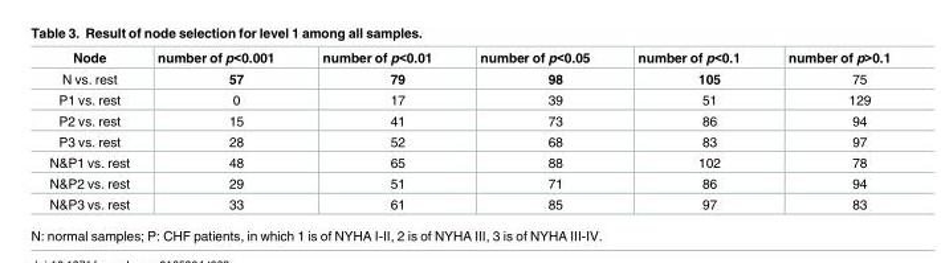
<table><thead><tr><td>Node</td><td>number of p&lt;0.001</td><td>number of p&lt;0.01</td><td>number of p&lt;0.05</td><td>number of p&lt;0.1</td><td>number of p&gt;0.1</td></tr></thead><tbody><tr><td>N vs. rest</td><td>57</td><td>79</td><td>98</td><td>105</td><td>75</td></tr><tr><td>P1 vs. rest</td><td>0</td><td>17</td><td>39</td><td>51</td><td>129</td></tr><tr><td>P2 vs. rest</td><td>15</td><td>41</td><td>73</td><td>86</td><td>94</td></tr><tr><td>P3 vs. rest</td><td>28</td><td>52</td><td>68</td><td>83</td><td>97</td></tr><tr><td>N&amp;P1 vs. rest</td><td>48</td><td>65</td><td>88</td><td>102</td><td>78</td></tr><tr><td>N&amp;P2 vs. rest</td><td>29</td><td>51</td><td>71</td><td>86</td><td>94</td></tr><tr><td>N&amp;P3 vs. rest</td><td>33</td><td>61</td><td>85</td><td>97</td><td>83</td></tr></tbody></table>